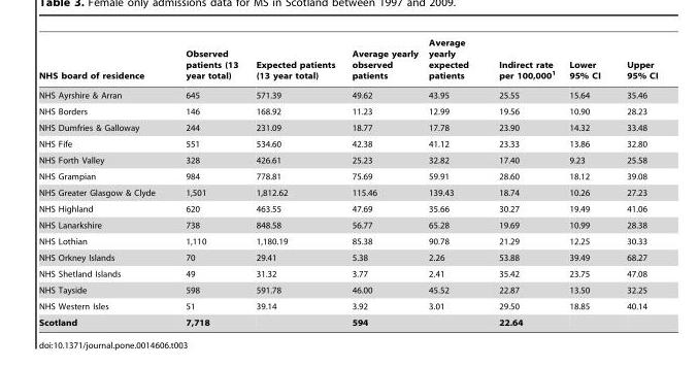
<table><thead><tr><td>NHS board of residence</td><td>Observed patients (13 year total)</td><td>Expected patients (13 year total)</td><td>Average yearly observed patients</td><td>Average yearly expected patients</td><td>Indirect rate per 100,000<sup>1</sup></td><td>Lower 95% CI</td><td>Upper 95% CI</td></tr></thead><tbody><tr><td>NHS Ayrshire &amp; Arran</td><td>645</td><td>571.39</td><td>49.62</td><td>43.95</td><td>25.55</td><td>15.64</td><td>35.46</td></tr><tr><td>NHS Borders</td><td>146</td><td>168.92</td><td>11.23</td><td>12.99</td><td>19.56</td><td>10.90</td><td>28.23</td></tr><tr><td>NHS Dumfries &amp; Galloway</td><td>244</td><td>231.09</td><td>18.77</td><td>17.78</td><td>23.90</td><td>14.32</td><td>33.48</td></tr><tr><td>NHS Fife</td><td>551</td><td>534.60</td><td>42.38</td><td>41.12</td><td>23.33</td><td>13.86</td><td>32.80</td></tr><tr><td>NHS Forth Valley</td><td>328</td><td>426.61</td><td>25.23</td><td>32.82</td><td>17.40</td><td>9.23</td><td>25.58</td></tr><tr><td>NHS Grampian</td><td>984</td><td>778.81</td><td>75.69</td><td>59.91</td><td>28.60</td><td>18.12</td><td>39.08</td></tr><tr><td>NHS Greater Glasgow &amp; Clyde</td><td>1,501</td><td>1,812.62</td><td>115.46</td><td>139.43</td><td>18.74</td><td>10.26</td><td>27.23</td></tr><tr><td>NHS Highland</td><td>620</td><td>463.55</td><td>47.69</td><td>35.66</td><td>30.27</td><td>19.49</td><td>41.06</td></tr><tr><td>NHS Lanarkshire</td><td>738</td><td>848.58</td><td>56.77</td><td>65.28</td><td>19.69</td><td>10.99</td><td>28.38</td></tr><tr><td>NHS Lothian</td><td>1,110</td><td>1,180.19</td><td>85.38</td><td>90.78</td><td>21.29</td><td>12.25</td><td>30.33</td></tr><tr><td>NHS Orkney Islands</td><td>70</td><td>29.41</td><td>5.38</td><td>2.26</td><td>53.88</td><td>39.49</td><td>68.27</td></tr><tr><td>NHS Shetland Islands</td><td>49</td><td>31.32</td><td>3.77</td><td>2.41</td><td>35.42</td><td>23.75</td><td>47.08</td></tr><tr><td>NHS Tayside</td><td>598</td><td>591.78</td><td>46.00</td><td>45.52</td><td>22.87</td><td>13.50</td><td>32.25</td></tr><tr><td>NHS Western Isles</td><td>51</td><td>39.14</td><td>3.92</td><td>3.01</td><td>29.50</td><td>18.85</td><td>40.14</td></tr><tr><td>Scotland</td><td>7,718</td><td></td><td>594</td><td></td><td>22.64</td><td></td><td></td></tr></tbody></table>